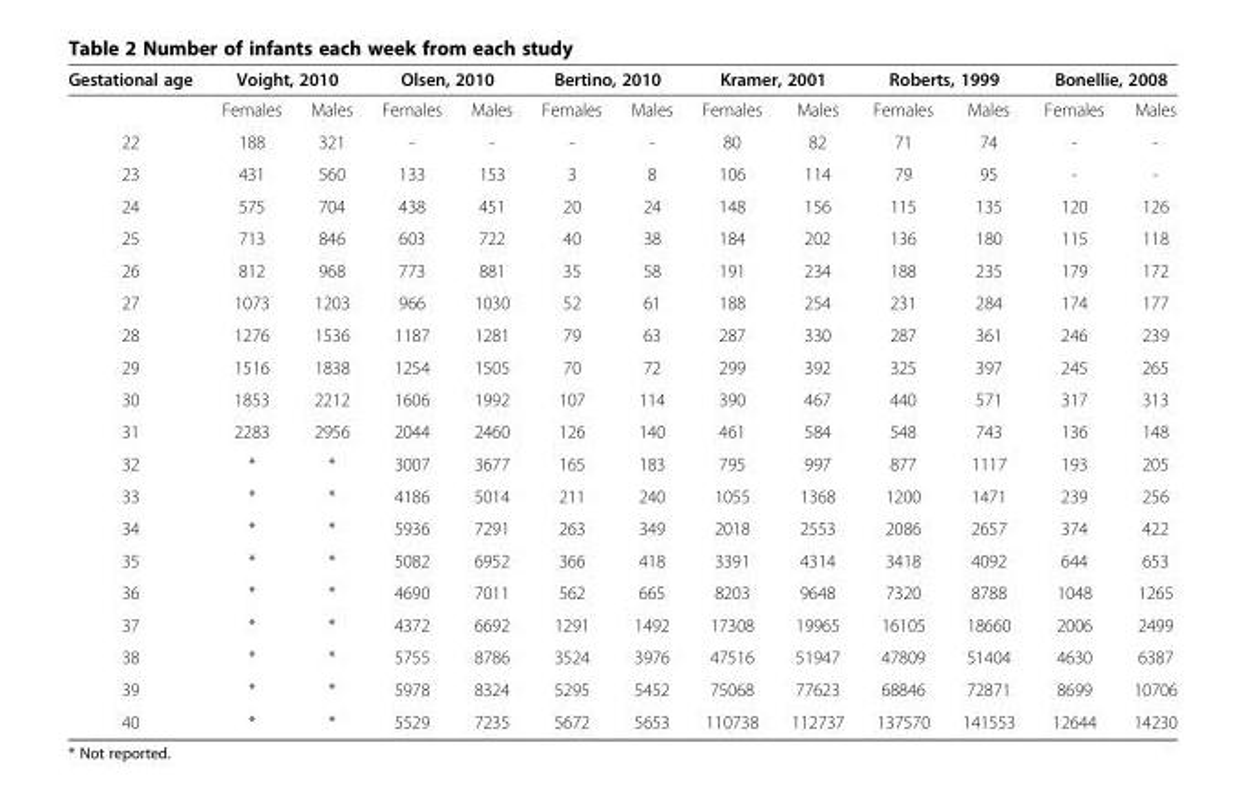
<table><thead><tr><td rowspan="2">Gestational age</td><td colspan="2">Voight, 2010</td><td colspan="2">Olsen, 2010</td><td colspan="2">Bertino, 2010</td><td colspan="2">Kramer, 2001</td><td colspan="2">Roberts, 1999</td><td colspan="2">Bonellie, 2008</td></tr><tr><td>Females</td><td>Males</td><td>Females</td><td>Males</td><td>Females</td><td>Males</td><td>Females</td><td>Males</td><td>Females</td><td>Males</td><td>Females</td><td>Males</td></tr></thead><tbody><tr><td>22</td><td>188</td><td>321</td><td>-</td><td>-</td><td>-</td><td>-</td><td>80</td><td>82</td><td>71</td><td>74</td><td>-</td><td>-</td></tr><tr><td>23</td><td>431</td><td>560</td><td>133</td><td>153</td><td>3</td><td>8</td><td>106</td><td>114</td><td>79</td><td>95</td><td>-</td><td>-</td></tr><tr><td>24</td><td>575</td><td>704</td><td>438</td><td>451</td><td>20</td><td>24</td><td>148</td><td>156</td><td>115</td><td>135</td><td>120</td><td>126</td></tr><tr><td>25</td><td>713</td><td>846</td><td>603</td><td>722</td><td>40</td><td>38</td><td>184</td><td>202</td><td>136</td><td>180</td><td>115</td><td>118</td></tr><tr><td>26</td><td>812</td><td>968</td><td>773</td><td>881</td><td>35</td><td>58</td><td>191</td><td>234</td><td>188</td><td>235</td><td>179</td><td>172</td></tr><tr><td>27</td><td>1073</td><td>1203</td><td>966</td><td>1030</td><td>52</td><td>61</td><td>188</td><td>254</td><td>231</td><td>284</td><td>174</td><td>177</td></tr><tr><td>28</td><td>1276</td><td>1536</td><td>1187</td><td>1281</td><td>79</td><td>63</td><td>287</td><td>330</td><td>287</td><td>361</td><td>246</td><td>239</td></tr><tr><td>29</td><td>1516</td><td>1838</td><td>1254</td><td>1505</td><td>70</td><td>72</td><td>299</td><td>392</td><td>325</td><td>397</td><td>245</td><td>265</td></tr><tr><td>30</td><td>1853</td><td>2212</td><td>1606</td><td>1992</td><td>107</td><td>114</td><td>390</td><td>467</td><td>440</td><td>571</td><td>317</td><td>313</td></tr><tr><td>31</td><td>2283</td><td>2956</td><td>2044</td><td>2460</td><td>126</td><td>140</td><td>461</td><td>584</td><td>548</td><td>743</td><td>136</td><td>148</td></tr><tr><td>32</td><td>*</td><td>*</td><td>3007</td><td>3677</td><td>165</td><td>183</td><td>795</td><td>997</td><td>877</td><td>1117</td><td>193</td><td>205</td></tr><tr><td>33</td><td>*</td><td>*</td><td>4186</td><td>5014</td><td>211</td><td>240</td><td>1055</td><td>1368</td><td>1200</td><td>1471</td><td>239</td><td>256</td></tr><tr><td>34</td><td>*</td><td>*</td><td>5936</td><td>7291</td><td>263</td><td>349</td><td>2018</td><td>2553</td><td>2086</td><td>2657</td><td>374</td><td>422</td></tr><tr><td>35</td><td>*</td><td>*</td><td>5082</td><td>6952</td><td>366</td><td>418</td><td>3391</td><td>4314</td><td>3418</td><td>4092</td><td>644</td><td>653</td></tr><tr><td>36</td><td>*</td><td>*</td><td>4690</td><td>7011</td><td>562</td><td>665</td><td>8203</td><td>9648</td><td>7320</td><td>8788</td><td>1048</td><td>1265</td></tr><tr><td>37</td><td>*</td><td>*</td><td>4372</td><td>6692</td><td>1291</td><td>1492</td><td>17308</td><td>19965</td><td>16105</td><td>18660</td><td>2006</td><td>2499</td></tr><tr><td>38</td><td>*</td><td>*</td><td>5755</td><td>8786</td><td>3524</td><td>3976</td><td>47516</td><td>51947</td><td>47809</td><td>51404</td><td>4630</td><td>6387</td></tr><tr><td>39</td><td>*</td><td>*</td><td>5978</td><td>8324</td><td>5295</td><td>5452</td><td>75068</td><td>77623</td><td>68846</td><td>72871</td><td>8699</td><td>10706</td></tr><tr><td>40</td><td>*</td><td>*</td><td>5529</td><td>7235</td><td>5672</td><td>5653</td><td>110738</td><td>112737</td><td>137570</td><td>141553</td><td>12644</td><td>14230</td></tr></tbody></table>